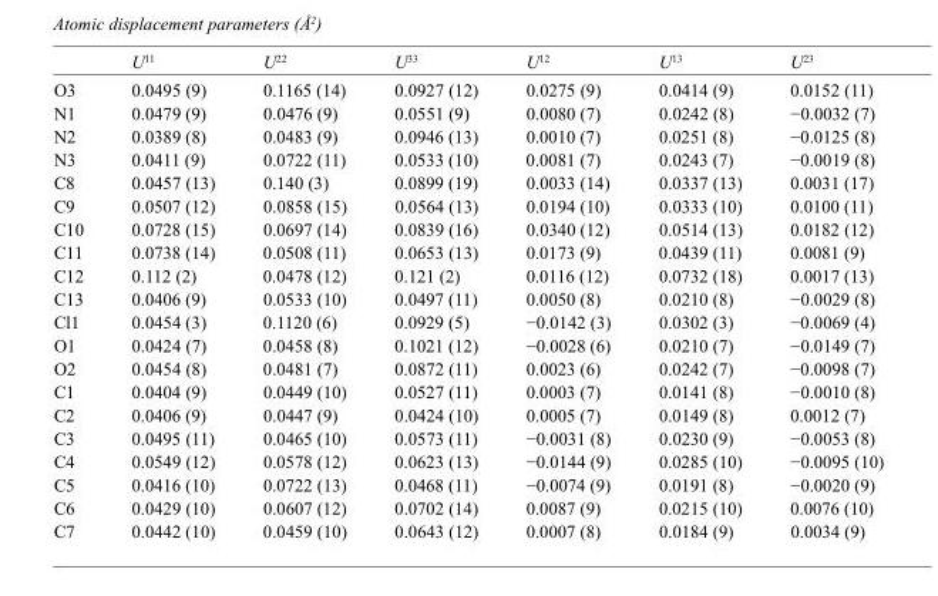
<table><thead><tr><td></td><td>U<sup>11</sup></td><td>U<sup>22</sup></td><td>U<sup>33</sup></td><td>U<sup>12</sup></td><td>U<sup>13</sup></td><td>U<sup>23</sup></td></tr></thead><tbody><tr><td>O3</td><td>0.0495 (9)</td><td>0.1165 (14)</td><td>0.0927 (12)</td><td>0.0275 (9)</td><td>0.0414 (9)</td><td>0.0152 (11)</td></tr><tr><td>N1</td><td>0.0479 (9)</td><td>0.0476 (9)</td><td>0.0551 (9)</td><td>0.0080 (7)</td><td>0.0242 (8)</td><td>−0.0032 (7)</td></tr><tr><td>N2</td><td>0.0389 (8)</td><td>0.0483 (9)</td><td>0.0946 (13)</td><td>0.0010 (7)</td><td>0.0251 (8)</td><td>−0.0125 (8)</td></tr><tr><td>N3</td><td>0.0411 (9)</td><td>0.0722 (11)</td><td>0.0533 (10)</td><td>0.0081 (7)</td><td>0.0243 (7)</td><td>−0.0019 (8)</td></tr><tr><td>C8</td><td>0.0457 (13)</td><td>0.140 (3)</td><td>0.0899 (19)</td><td>0.0033 (14)</td><td>0.0337 (13)</td><td>0.0031 (17)</td></tr><tr><td>C9</td><td>0.0507 (12)</td><td>0.0858 (15)</td><td>0.0564 (13)</td><td>0.0194 (10)</td><td>0.0333 (10)</td><td>0.0100 (11)</td></tr><tr><td>C10</td><td>0.0728 (15)</td><td>0.0697 (14)</td><td>0.0839 (16)</td><td>0.0340 (12)</td><td>0.0514 (13)</td><td>0.0182 (12)</td></tr><tr><td>C11</td><td>0.0738 (14)</td><td>0.0508 (11)</td><td>0.0653 (13)</td><td>0.0173 (9)</td><td>0.0439 (11)</td><td>0.0081 (9)</td></tr><tr><td>C12</td><td>0.112 (2)</td><td>0.0478 (12)</td><td>0.121 (2)</td><td>0.0116 (12)</td><td>0.0732 (18)</td><td>0.0017 (13)</td></tr><tr><td>C13</td><td>0.0406 (9)</td><td>0.0533 (10)</td><td>0.0497 (11)</td><td>0.0050 (8)</td><td>0.0210 (8)</td><td>−0.0029 (8)</td></tr><tr><td>Cl1</td><td>0.0454 (3)</td><td>0.1120 (6)</td><td>0.0929 (5)</td><td>−0.0142 (3)</td><td>0.0302 (3)</td><td>−0.0069 (4)</td></tr><tr><td>O1</td><td>0.0424 (7)</td><td>0.0458 (8)</td><td>0.1021 (12)</td><td>−0.0028 (6)</td><td>0.0210 (7)</td><td>−0.0149 (7)</td></tr><tr><td>O2</td><td>0.0454 (8)</td><td>0.0481 (7)</td><td>0.0872 (11)</td><td>0.0023 (6)</td><td>0.0242 (7)</td><td>−0.0098 (7)</td></tr><tr><td>C1</td><td>0.0404 (9)</td><td>0.0449 (10)</td><td>0.0527 (11)</td><td>0.0003 (7)</td><td>0.0141 (8)</td><td>−0.0010 (8)</td></tr><tr><td>C2</td><td>0.0406 (9)</td><td>0.0447 (9)</td><td>0.0424 (10)</td><td>0.0005 (7)</td><td>0.0149 (8)</td><td>0.0012 (7)</td></tr><tr><td>C3</td><td>0.0495 (11)</td><td>0.0465 (10)</td><td>0.0573 (11)</td><td>−0.0031 (8)</td><td>0.0230 (9)</td><td>−0.0053 (8)</td></tr><tr><td>C4</td><td>0.0549 (12)</td><td>0.0578 (12)</td><td>0.0623 (13)</td><td>−0.0144 (9)</td><td>0.0285 (10)</td><td>−0.0095 (10)</td></tr><tr><td>C5</td><td>0.0416 (10)</td><td>0.0722 (13)</td><td>0.0468 (11)</td><td>−0.0074 (9)</td><td>0.0191 (8)</td><td>−0.0020 (9)</td></tr><tr><td>C6</td><td>0.0429 (10)</td><td>0.0607 (12)</td><td>0.0702 (14)</td><td>0.0087 (9)</td><td>0.0215 (10)</td><td>0.0076 (10)</td></tr><tr><td>C7</td><td>0.0442 (10)</td><td>0.0459 (10)</td><td>0.0643 (12)</td><td>0.0007 (8)</td><td>0.0184 (9)</td><td>0.0034 (9)</td></tr></tbody></table>